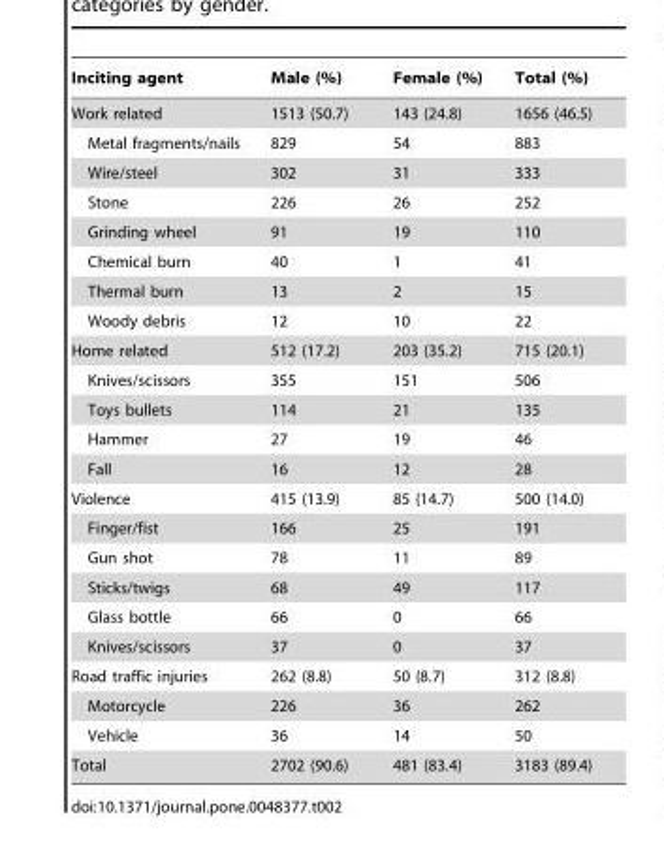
<table><thead><tr><td>Inciting agent</td><td>Male (%)</td><td>Female (%)</td><td>Total (%)</td></tr></thead><tbody><tr><td>Work related</td><td>1513 (50.7)</td><td>143 (24.8)</td><td>1656 (46.5)</td></tr><tr><td>Metal fragments/nails</td><td>829</td><td>54</td><td>883</td></tr><tr><td>Wire/steel</td><td>302</td><td>31</td><td>333</td></tr><tr><td>Stone</td><td>226</td><td>26</td><td>252</td></tr><tr><td>Grinding wheel</td><td>91</td><td>19</td><td>110</td></tr><tr><td>Chemical burn</td><td>40</td><td>1</td><td>41</td></tr><tr><td>Thermal burn</td><td>13</td><td>2</td><td>15</td></tr><tr><td>Woody debris</td><td>12</td><td>10</td><td>22</td></tr><tr><td>Home related</td><td>512 (17.2)</td><td>203 (35.2)</td><td>715 (20.1)</td></tr><tr><td>Knives/scissors</td><td>355</td><td>151</td><td>506</td></tr><tr><td>Toys bullets</td><td>114</td><td>21</td><td>135</td></tr><tr><td>Hammer</td><td>27</td><td>19</td><td>46</td></tr><tr><td>Fall</td><td>16</td><td>12</td><td>28</td></tr><tr><td>Violence</td><td>415 (13.9)</td><td>85 (14.7)</td><td>500 (14.0)</td></tr><tr><td>Finger/fist</td><td>166</td><td>25</td><td>191</td></tr><tr><td>Gun shot</td><td>78</td><td>11</td><td>89</td></tr><tr><td>Sticks/twigs</td><td>68</td><td>49</td><td>117</td></tr><tr><td>Glass bottle</td><td>66</td><td>0</td><td>66</td></tr><tr><td>Knives/scissors</td><td>37</td><td>0</td><td>37</td></tr><tr><td>Road traffic injuries</td><td>262 (8.8)</td><td>50 (8.7)</td><td>312 (8.8)</td></tr><tr><td>Motorcycle</td><td>226</td><td>36</td><td>262</td></tr><tr><td>Vehicle</td><td>36</td><td>14</td><td>50</td></tr><tr><td>Total</td><td>2702 (90.6)</td><td>481 (83.4)</td><td>3183 (89.4)</td></tr></tbody></table>